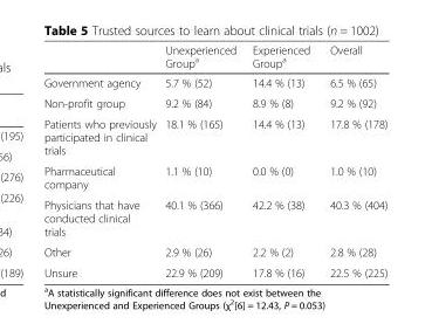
<table><thead><tr><td></td><td>Unexperienced Group<sup>a</sup></td><td>Experienced Group<sup>a</sup></td><td>Overall</td></tr></thead><tbody><tr><td>Government agency</td><td>5.7 % (52)</td><td>14.4 % (13)</td><td>6.5 % (65)</td></tr><tr><td>Non-profit group</td><td>9.2 % (84)</td><td>8.9 % (8)</td><td>9.2 % (92)</td></tr><tr><td>Patients who previously participated in clinical trials</td><td>18.1 % (165)</td><td>14.4 % (13)</td><td>17.8 % (178)</td></tr><tr><td>Pharmaceutical company</td><td>1.1 % (10)</td><td>0.0 % (0)</td><td>1.0 % (10)</td></tr><tr><td>Physicians that have conducted clinical trials</td><td>40.1 % (366)</td><td>42.2 % (38)</td><td>40.3 % (404)</td></tr><tr><td>Other</td><td>2.9 % (26)</td><td>2.2 % (2)</td><td>2.8 % (28)</td></tr><tr><td>Unsure</td><td>22.9 % (209)</td><td>17.8 % (16)</td><td>22.5 % (225)</td></tr></tbody></table>